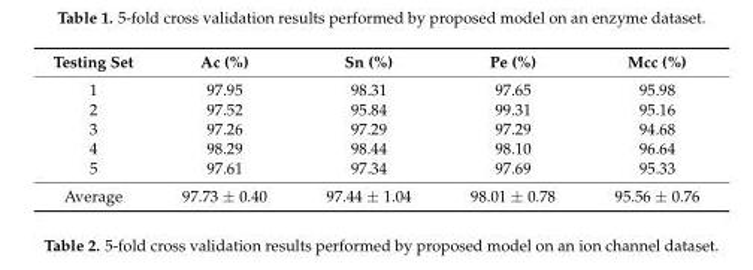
<table><thead><tr><td>Testing Set</td><td>Ac (%)</td><td>Sn (%)</td><td>Pe (%)</td><td>Mcc (%)</td></tr></thead><tbody><tr><td>1</td><td>97.95</td><td>98.31</td><td>97.65</td><td>95.98</td></tr><tr><td>2</td><td>97.52</td><td>95.84</td><td>99.31</td><td>95.16</td></tr><tr><td>3</td><td>97.26</td><td>97.29</td><td>97.29</td><td>94.68</td></tr><tr><td>4</td><td>98.29</td><td>98.44</td><td>98.10</td><td>96.64</td></tr><tr><td>5</td><td>97.61</td><td>97.34</td><td>97.69</td><td>95.33</td></tr><tr><td>Average</td><td>97.73 ± 0.40</td><td>97.44 ± 1.04</td><td>98.01 ± 0.78</td><td>95.56 ± 0.76</td></tr></tbody></table>